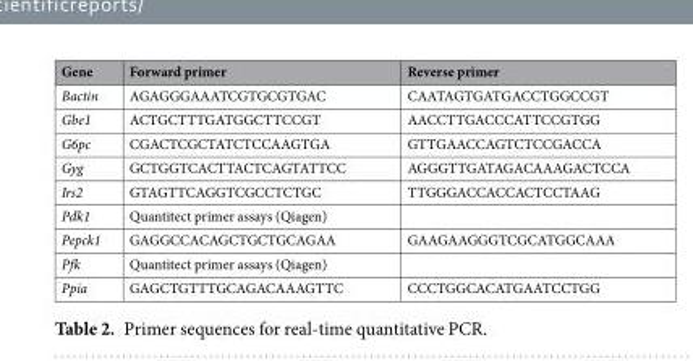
<table><thead><tr><td>Gene</td><td>Forward primer</td><td>Reverse primer</td></tr></thead><tbody><tr><td>Bactin</td><td>AGAGGGAAATCGTGCGTGAC</td><td>CAATAGTGATGACCTGGCCGT</td></tr><tr><td>Gbe1</td><td>ACTGCTTTGATGGCTTCCGT</td><td>AACCTTGACCCATTCCGTGG</td></tr><tr><td>G6pc</td><td>CGACTCGCTATCTCCAAGTGA</td><td>GTTGAACCAGTCTCCGACCA</td></tr><tr><td>Gyg</td><td>GCTGGTCACTTACTCAGTATTCC</td><td>AGGGTTGATAGACAAAGACTCCA</td></tr><tr><td>Irs2</td><td>GTAGTTCAGGTCGCCTCTGC</td><td>TTGGGACCACCACTCCTAAG</td></tr><tr><td>Pdk1</td><td>Quantitect primer assays (Qiagen)</td><td></td></tr><tr><td>Pepck1</td><td>GAGGCCACAGCTGCTGCAGAA</td><td>GAAGAAGGGTCGCATGGCAAA</td></tr><tr><td>Pfk</td><td>Quantitect primer assays (Qiagen)</td><td></td></tr><tr><td>Ppia</td><td>GAGCTGTTTGCAGACAAAGTTC</td><td>CCCTGGCACATGAATCCTGG</td></tr></tbody></table>